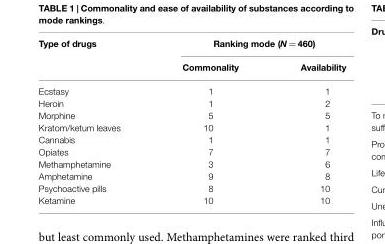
<table><thead><tr><td rowspan="2">Type of drugs</td><td colspan="2">Ranking mode (N = 460)</td></tr><tr><td>Commonality</td><td>Availability</td></tr></thead><tbody><tr><td>Ecstasy</td><td>1</td><td>1</td></tr><tr><td>Heroin</td><td>1</td><td>2</td></tr><tr><td>Morphine</td><td>5</td><td>5</td></tr><tr><td>Kratom/ketum leaves</td><td>10</td><td>1</td></tr><tr><td>Cannabis</td><td>1</td><td>1</td></tr><tr><td>Opiates</td><td>7</td><td>7</td></tr><tr><td>Methamphetamine</td><td>3</td><td>6</td></tr><tr><td>Amphetamine</td><td>9</td><td>8</td></tr><tr><td>Psychoactive pills</td><td>8</td><td>10</td></tr><tr><td>Ketamine</td><td>10</td><td>10</td></tr></tbody></table>